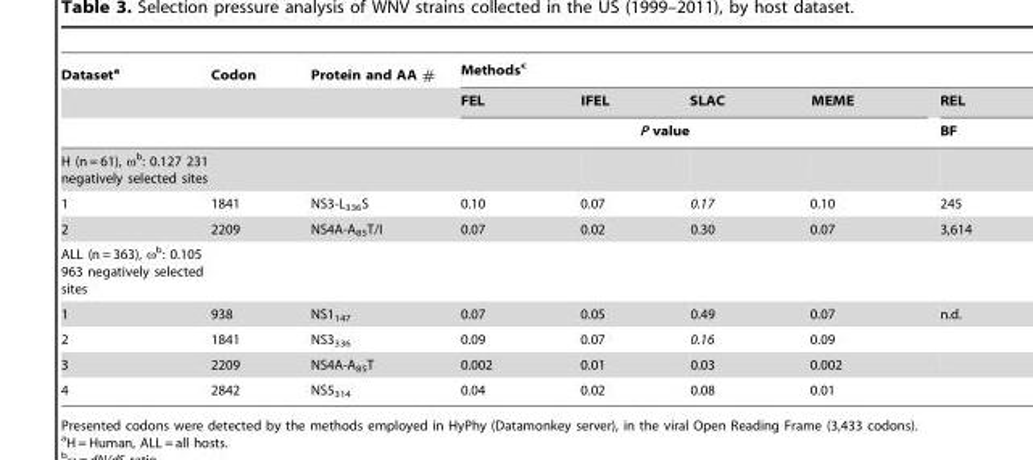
<table><thead><tr><td rowspan="4">Dataset<sup>a</sup> H (n = 61), ω<sup>b</sup>: 0.127 231 negatively selected sites</td><td rowspan="4">Codon</td><td rowspan="4">Protein and AA #</td><td colspan="5">Methods<sup>c</sup></td></tr><tr><td rowspan="2" colspan="4">FEL IFEL SLAC MEME P value</td><td rowspan="3">REL BF</td></tr><tr></tr><tr><td></td><td></td><td></td><td></td></tr></thead><tbody><tr><td>1</td><td>1841</td><td>NS3-L<sub>336</sub>S</td><td>0.10</td><td>0.07</td><td>0.17</td><td>0.10</td><td>245</td></tr><tr><td>2</td><td>2209</td><td>NS4A-A<sub>85</sub>T/I</td><td>0.07</td><td>0.02</td><td>0.30</td><td>0.07</td><td>3,614</td></tr><tr><td colspan="8">ALL (n = 363), ω<sup>b</sup>: 0.105 963 negatively selected sites</td></tr><tr><td>1</td><td>938</td><td>NS1<sub>147</sub></td><td>0.07</td><td>0.05</td><td>0.49</td><td>0.07</td><td>n.d.</td></tr><tr><td>2</td><td>1841</td><td>NS3<sub>336</sub></td><td>0.09</td><td>0.07</td><td>0.16</td><td>0.09</td><td></td></tr><tr><td>3</td><td>2209</td><td>NS4A-A<sub>85</sub>T</td><td>0.002</td><td>0.01</td><td>0.03</td><td>0.002</td><td></td></tr><tr><td>4</td><td>2842</td><td>NS5<sub>314</sub></td><td>0.04</td><td>0.02</td><td>0.08</td><td>0.01</td><td></td></tr></tbody></table>